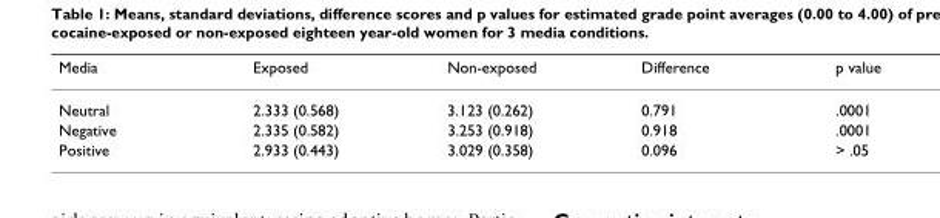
<table><thead><tr><td>Media</td><td>Exposed</td><td>Non-exposed</td><td>Difference</td><td>p value</td></tr></thead><tbody><tr><td>Neutral</td><td>2.333 (0.568)</td><td>3.123 (0.262)</td><td>0.791</td><td>.0001</td></tr><tr><td>Negative</td><td>2.335 (0.582)</td><td>3.253 (0.918)</td><td>0.918</td><td>.0001</td></tr><tr><td>Positive</td><td>2.933 (0.443)</td><td>3.029 (0.358)</td><td>0.096</td><td>&gt; .05</td></tr></tbody></table>